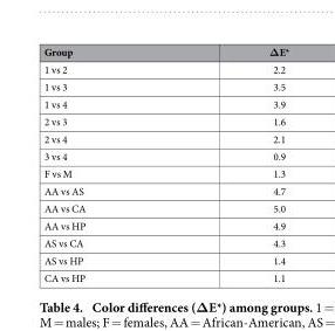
<table><thead><tr><td>Group</td><td>ΔE*</td></tr></thead><tbody><tr><td>1 vs 2</td><td>2.2</td></tr><tr><td>1 vs 3</td><td>3.5</td></tr><tr><td>1 vs 4</td><td>3.9</td></tr><tr><td>2 vs 3</td><td>1.6</td></tr><tr><td>2 vs 4</td><td>2.1</td></tr><tr><td>3 vs 4</td><td>0.9</td></tr><tr><td>F vs M</td><td>1.3</td></tr><tr><td>AA vs AS</td><td>4.7</td></tr><tr><td>AA vs CA</td><td>5.0</td></tr><tr><td>AA vs HP</td><td>4.9</td></tr><tr><td>AS vs CA</td><td>4.3</td></tr><tr><td>AS vs HP</td><td>1.4</td></tr><tr><td>CA vs HP</td><td>1.1</td></tr></tbody></table>